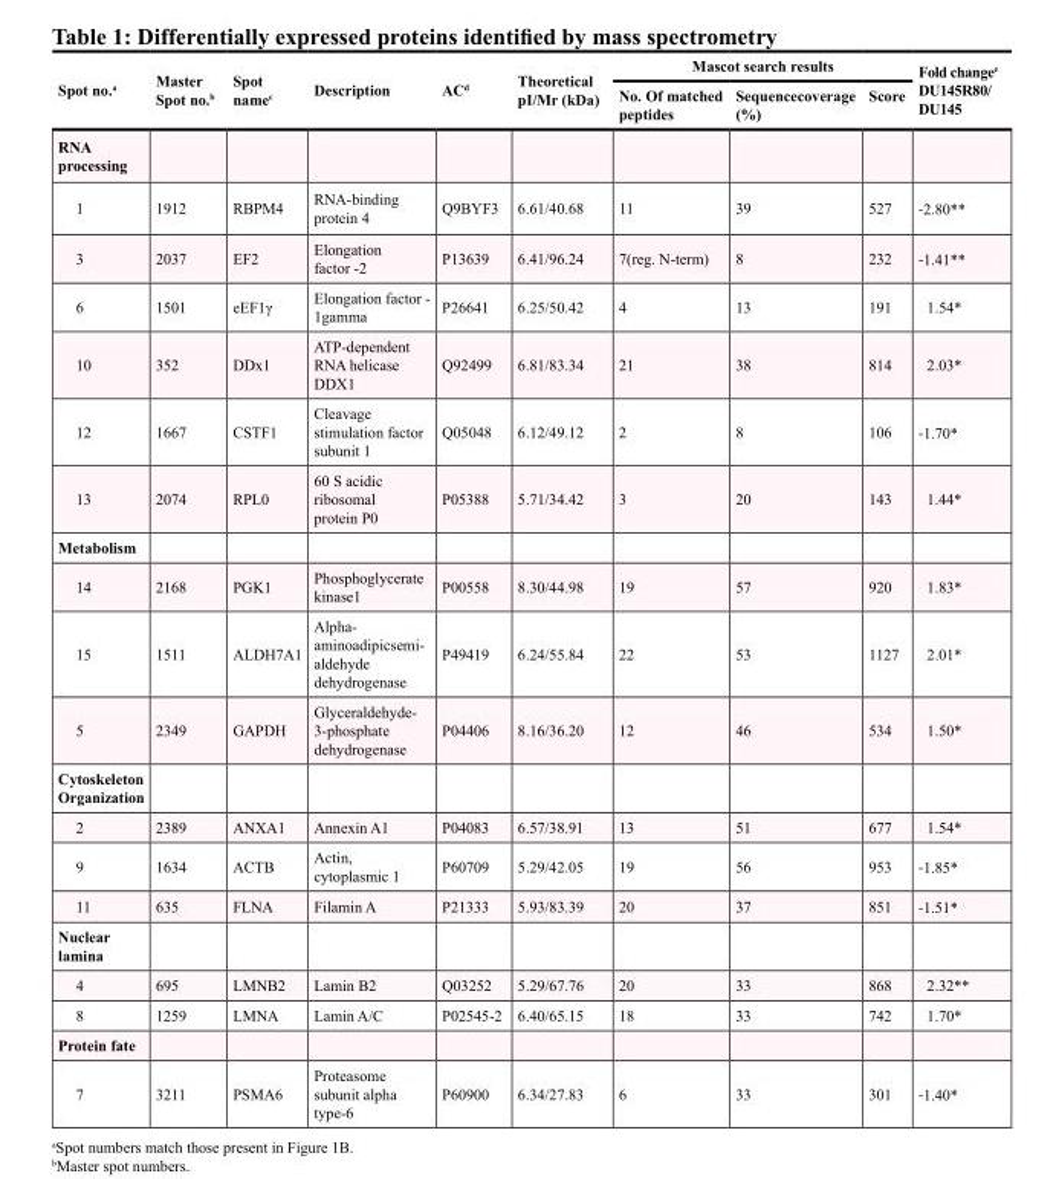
<table><thead><tr><td rowspan="2">Spot no.<sup>a</sup></td><td rowspan="2">Master Spot no.<sup>b</sup></td><td rowspan="2">Spot name<sup>c</sup></td><td rowspan="2">Description</td><td rowspan="2">AC<sup>d</sup></td><td rowspan="2">Theoretical pI/Mr (kDa)</td><td colspan="3">Mascot search results</td><td rowspan="2">Fold change<sup>e</sup> DU145R80/ DU145</td></tr><tr><td>No. Of matched peptides</td><td>Sequencecoverage (%)</td><td>Score</td></tr></thead><tbody><tr><td colspan="10">RNA processing</td></tr><tr><td>1</td><td>1912</td><td>RBPM4</td><td>RNA-binding protein 4</td><td>Q9BYF3</td><td>6.61/40.68</td><td>11</td><td>39</td><td>527</td><td>-2.80**</td></tr><tr><td>3</td><td>2037</td><td>EF2</td><td>Elongation factor -2</td><td>P13639</td><td>6.41/96.24</td><td>7(reg. N-term)</td><td>8</td><td>232</td><td>-1.41**</td></tr><tr><td>6</td><td>1501</td><td>eEF1γ</td><td>Elongation factor - 1gamma</td><td>P26641</td><td>6.25/50.42</td><td>4</td><td>13</td><td>191</td><td>1.54*</td></tr><tr><td>10</td><td>352</td><td>DDx1</td><td>ATP-dependent RNA helicase DDX1</td><td>Q92499</td><td>6.81/83.34</td><td>21</td><td>38</td><td>814</td><td>2.03*</td></tr><tr><td>12</td><td>1667</td><td>CSTF1</td><td>Cleavage stimulation factor subunit 1</td><td>Q05048</td><td>6.12/49.12</td><td>2</td><td>8</td><td>106</td><td>-1.70*</td></tr><tr><td>13</td><td>2074</td><td>RPL0</td><td>60 S acidic ribosomal protein P0</td><td>P05388</td><td>5.71/34.42</td><td>3</td><td>20</td><td>143</td><td>1.44*</td></tr><tr><td colspan="10">Metabolism</td></tr><tr><td>14</td><td>2168</td><td>PGK1</td><td>Phosphoglycerate kinase1</td><td>P00558</td><td>8.30/44.98</td><td>19</td><td>57</td><td>920</td><td>1.83*</td></tr><tr><td>15</td><td>1511</td><td>ALDH7A1</td><td>Alpha- aminoadipicsemi- aldehyde dehydrogenase</td><td>P49419</td><td>6.24/55.84</td><td>22</td><td>53</td><td>1127</td><td>2.01*</td></tr><tr><td>5</td><td>2349</td><td>GAPDH</td><td>Glyceraldehyde- 3-phosphate dehydrogenase</td><td>P04406</td><td>8.16/36.20</td><td>12</td><td>46</td><td>534</td><td>1.50*</td></tr><tr><td colspan="10">Cytoskeleton Organization</td></tr><tr><td>2</td><td>2389</td><td>ANXA1</td><td>Annexin A1</td><td>P04083</td><td>6.57/38.91</td><td>13</td><td>51</td><td>677</td><td>1.54*</td></tr><tr><td>9</td><td>1634</td><td>ACTB</td><td>Actin, cytoplasmic 1</td><td>P60709</td><td>5.29/42.05</td><td>19</td><td>56</td><td>953</td><td>-1.85*</td></tr><tr><td>11</td><td>635</td><td>FLNA</td><td>Filamin A</td><td>P21333</td><td>5.93/83.39</td><td>20</td><td>37</td><td>851</td><td>-1.51*</td></tr><tr><td colspan="10">Nuclear lamina</td></tr><tr><td>4</td><td>695</td><td>LMNB2</td><td>Lamin B2</td><td>Q03252</td><td>5.29/67.76</td><td>20</td><td>33</td><td>868</td><td>2.32**</td></tr><tr><td>8</td><td>1259</td><td>LMNA</td><td>Lamin A/C</td><td>P02545-2</td><td>6.40/65.15</td><td>18</td><td>33</td><td>742</td><td>1.70*</td></tr><tr><td colspan="10">Protein fate</td></tr><tr><td>7</td><td>3211</td><td>PSMA6</td><td>Proteasome subunit alpha type-6</td><td>P60900</td><td>6.34/27.83</td><td>6</td><td>33</td><td>301</td><td>-1.40*</td></tr></tbody></table>